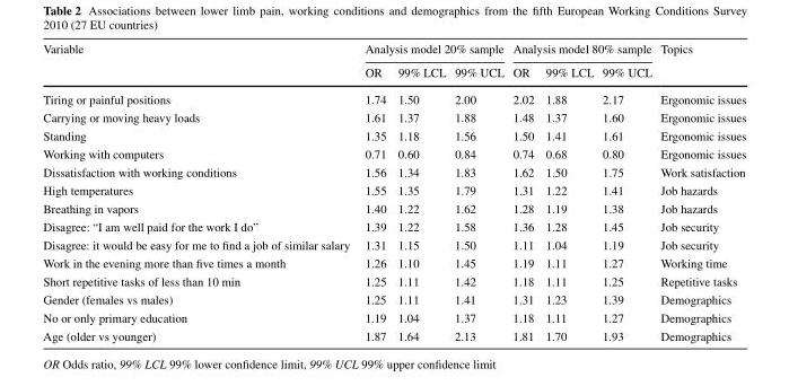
<table><thead><tr><td rowspan="2">Variable</td><td colspan="3">Analysis model 20% sample</td><td colspan="3">Analysis model 80% sample</td><td rowspan="2">Topics</td></tr><tr><td>OR</td><td>99% LCL</td><td>99% UCL</td><td>OR</td><td>99% LCL</td><td>99% UCL</td></tr></thead><tbody><tr><td>Tiring or painful positions</td><td>1.74</td><td>1.50</td><td>2.00</td><td>2.02</td><td>1.88</td><td>2.17</td><td>Ergonomic issues</td></tr><tr><td>Carrying or moving heavy loads</td><td>1.61</td><td>1.37</td><td>1.88</td><td>1.48</td><td>1.37</td><td>1.60</td><td>Ergonomic issues</td></tr><tr><td>Standing</td><td>1.35</td><td>1.18</td><td>1.56</td><td>1.50</td><td>1.41</td><td>1.61</td><td>Ergonomic issues</td></tr><tr><td>Working with computers</td><td>0.71</td><td>0.60</td><td>0.84</td><td>0.74</td><td>0.68</td><td>0.80</td><td>Ergonomic issues</td></tr><tr><td>Dissatisfaction with working conditions</td><td>1.56</td><td>1.34</td><td>1.83</td><td>1.62</td><td>1.50</td><td>1.75</td><td>Work satisfaction</td></tr><tr><td>High temperatures</td><td>1.55</td><td>1.35</td><td>1.79</td><td>1.31</td><td>1.22</td><td>1.41</td><td>Job hazards</td></tr><tr><td>Breathing in vapors</td><td>1.40</td><td>1.22</td><td>1.62</td><td>1.28</td><td>1.19</td><td>1.38</td><td>Job hazards</td></tr><tr><td>Disagree: “I am well paid for the work I do”</td><td>1.39</td><td>1.22</td><td>1.58</td><td>1.36</td><td>1.28</td><td>1.45</td><td>Job security</td></tr><tr><td>Disagree: it would be easy for me to find a job of similar salary</td><td>1.31</td><td>1.15</td><td>1.50</td><td>1.11</td><td>1.04</td><td>1.19</td><td>Job security</td></tr><tr><td>Work in the evening more than five times a month</td><td>1.26</td><td>1.10</td><td>1.45</td><td>1.19</td><td>1.11</td><td>1.27</td><td>Working time</td></tr><tr><td>Short repetitive tasks of less than 10 min</td><td>1.25</td><td>1.11</td><td>1.42</td><td>1.18</td><td>1.11</td><td>1.25</td><td>Repetitive tasks</td></tr><tr><td>Gender (females vs males)</td><td>1.25</td><td>1.11</td><td>1.41</td><td>1.31</td><td>1.23</td><td>1.39</td><td>Demographics</td></tr><tr><td>No or only primary education</td><td>1.19</td><td>1.04</td><td>1.37</td><td>1.18</td><td>1.11</td><td>1.27</td><td>Demographics</td></tr><tr><td>Age (older vs younger)</td><td>1.87</td><td>1.64</td><td>2.13</td><td>1.81</td><td>1.70</td><td>1.93</td><td>Demographics</td></tr></tbody></table>